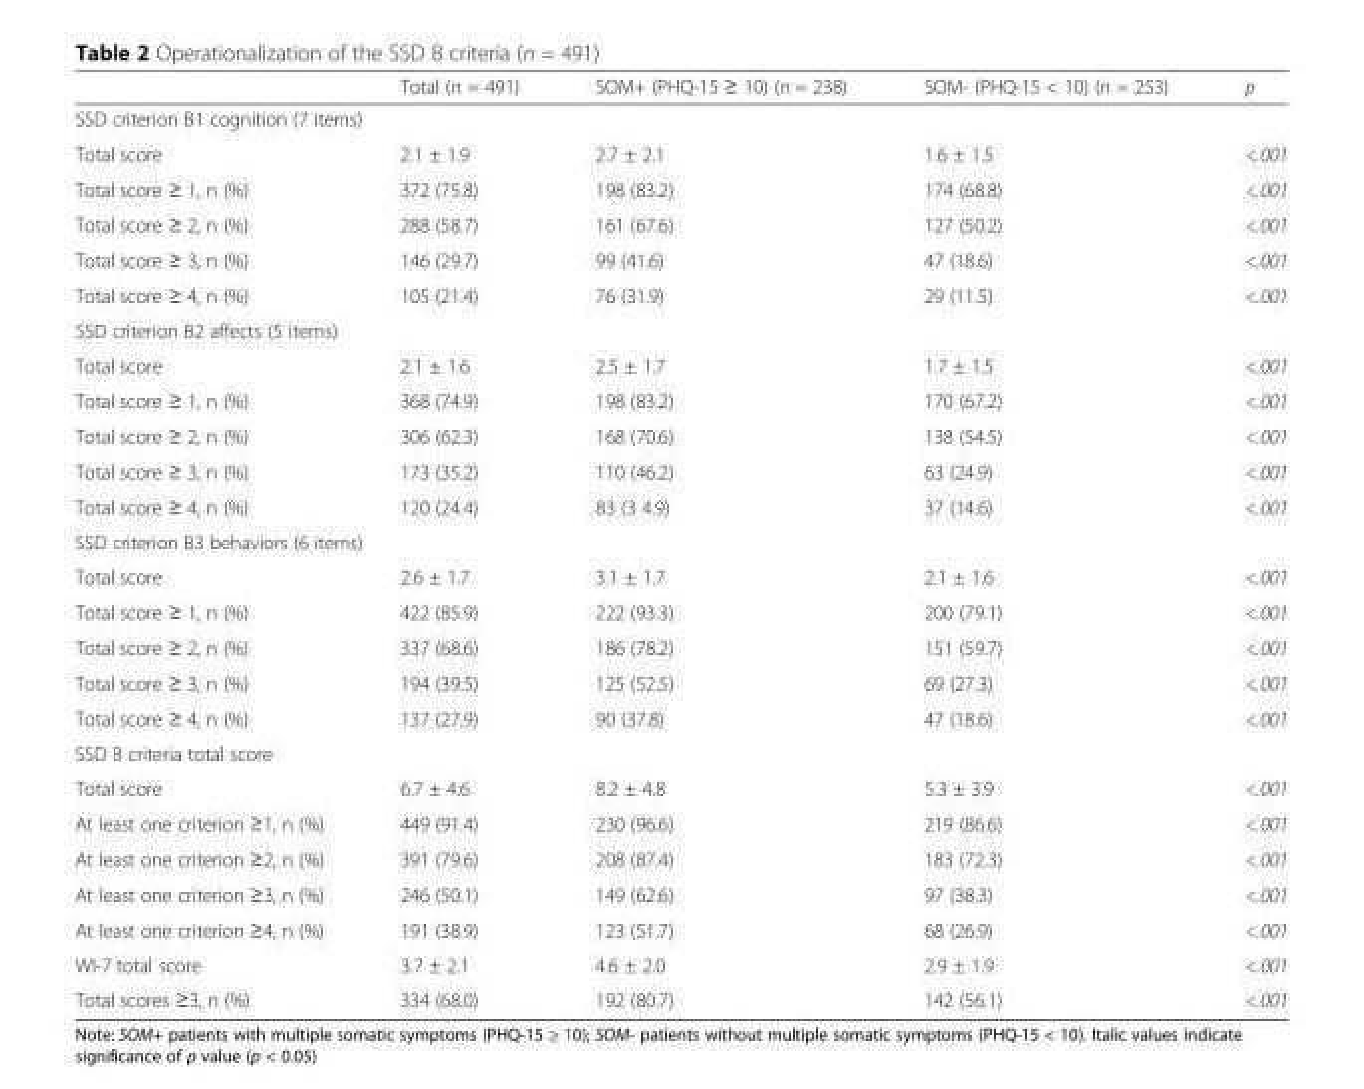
<table><thead><tr><td></td><td>Total (n = 491)</td><td>SOM+ (PHQ-15 ≥ 10) (n = 238)</td><td>SOM- (PHQ-15 &lt; 10) (n = 253)</td><td>p</td></tr></thead><tbody><tr><td colspan="5">SSD criterion B1 cognition (7 items)</td></tr><tr><td>Total score</td><td>2.1 ± 1.9</td><td>2.7 ± 2.1</td><td>1.6 ± 1.5</td><td>&lt;.001</td></tr><tr><td>Total score ≥ 1, n (%)</td><td>372 (75.8)</td><td>198 (83.2)</td><td>174 (68.8)</td><td>&lt;.001</td></tr><tr><td>Total score ≥ 2, n (%)</td><td>288 (58.7)</td><td>161 (67.6)</td><td>127 (50.2)</td><td>&lt;.001</td></tr><tr><td>Total score ≥ 3, n (%)</td><td>146 (29.7)</td><td>99 (41.6)</td><td>47 (18.6)</td><td>&lt;.001</td></tr><tr><td>Total score ≥ 4, n (%)</td><td>105 (21.4)</td><td>76 (31.9)</td><td>29 (11.5)</td><td>&lt;.001</td></tr><tr><td colspan="5">SSD criterion B2 affects (5 items)</td></tr><tr><td>Total score</td><td>2.1 ± 1.6</td><td>2.5 ± 1.7</td><td>1.7 ± 1.5</td><td>&lt;.001</td></tr><tr><td>Total score ≥ 1, n (%)</td><td>368 (74.9)</td><td>198 (83.2)</td><td>170 (67.2)</td><td>&lt;.001</td></tr><tr><td>Total score ≥ 2, n (%)</td><td>306 (62.3)</td><td>168 (70.6)</td><td>138 (54.5)</td><td>&lt;.001</td></tr><tr><td>Total score ≥ 3, n (%)</td><td>173 (35.2)</td><td>110 (46.2)</td><td>63 (24.9)</td><td>&lt;.001</td></tr><tr><td>Total score ≥ 4, n (%)</td><td>120 (24.4)</td><td>83 (3 4.9)</td><td>37 (14.6)</td><td>&lt;.001</td></tr><tr><td colspan="5">SSD criterion B3 behaviors (6 items)</td></tr><tr><td>Total score</td><td>2.6 ± 1.7</td><td>3.1 ± 1.7</td><td>2.1 ± 1.6</td><td>&lt;.001</td></tr><tr><td>Total score ≥ 1, n (%)</td><td>422 (85.9)</td><td>222 (93.3)</td><td>200 (79.1)</td><td>&lt;.001</td></tr><tr><td>Total score ≥ 2, n (%)</td><td>337 (68.6)</td><td>186 (78.2)</td><td>151 (59.7)</td><td>&lt;.001</td></tr><tr><td>Total score ≥ 3, n (%)</td><td>194 (39.5)</td><td>125 (52.5)</td><td>69 (27.3)</td><td>&lt;.001</td></tr><tr><td>Total score ≥ 4, n (%)</td><td>137 (27.9)</td><td>90 (37.8)</td><td>47 (18.6)</td><td>&lt;.001</td></tr><tr><td colspan="5">SSD B criteria total score</td></tr><tr><td>Total score</td><td>6.7 ± 4.6</td><td>8.2 ± 4.8</td><td>5.3 ± 3.9</td><td>&lt;.001</td></tr><tr><td>At least one criterion ≥1, n (%)</td><td>449 (91.4)</td><td>230 (96.6)</td><td>219 (86.6)</td><td>&lt;.001</td></tr><tr><td>At least one criterion ≥2, n (%)</td><td>391 (79.6)</td><td>208 (87.4)</td><td>183 (72.3)</td><td>&lt;.001</td></tr><tr><td>At least one criterion ≥3, n (%)</td><td>246 (50.1)</td><td>149 (62.6)</td><td>97 (38.3)</td><td>&lt;.001</td></tr><tr><td>At least one criterion ≥4, n (%)</td><td>191 (38.9)</td><td>123 (51.7)</td><td>68 (26.9)</td><td>&lt;.001</td></tr><tr><td>WI-7 total score</td><td>3.7 ± 2.1</td><td>4.6 ± 2.0</td><td>2.9 ± 1.9</td><td>&lt;.001</td></tr><tr><td>Total scores ≥3, n (%)</td><td>334 (68.0)</td><td>192 (80.7)</td><td>142 (56.1)</td><td>&lt;.001</td></tr></tbody></table>